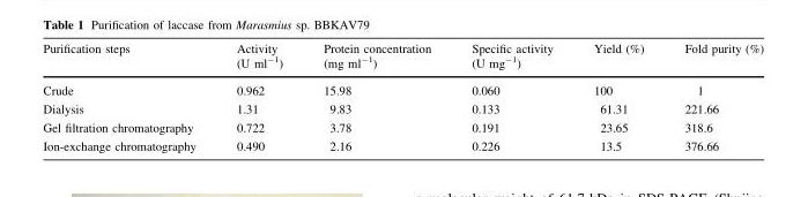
<table><thead><tr><td>Purification steps</td><td>Activity (U ml<sup>-1</sup>)</td><td>Protein concentration (mg ml<sup>-1</sup>)</td><td>Specific activity (U mg<sup>-1</sup>)</td><td>Yield (%)</td><td>Fold purity (%)</td></tr></thead><tbody><tr><td>Crude</td><td>0.962</td><td>15.98</td><td>0.060</td><td>100</td><td>1</td></tr><tr><td>Dialysis</td><td>1.31</td><td>9.83</td><td>0.133</td><td>61.31</td><td>221.66</td></tr><tr><td>Gel filtration chromatography</td><td>0.722</td><td>3.78</td><td>0.191</td><td>23.65</td><td>318.6</td></tr><tr><td>Ion-exchange chromatography</td><td>0.490</td><td>2.16</td><td>0.226</td><td>13.5</td><td>376.66</td></tr></tbody></table>